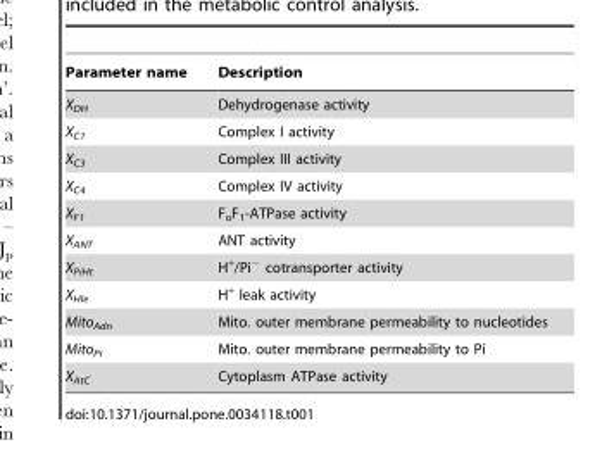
<table><thead><tr><td>Parameter name</td><td>Description</td></tr></thead><tbody><tr><td>X<sub>DH</sub></td><td>Dehydrogenase activity</td></tr><tr><td>X<sub>C1</sub></td><td>Complex I activity</td></tr><tr><td>X<sub>C3</sub></td><td>Complex III activity</td></tr><tr><td>X<sub>C4</sub></td><td>Complex IV activity</td></tr><tr><td>X<sub>F1</sub></td><td>F<sub>o</sub>F<sub>1</sub>-ATPase activity</td></tr><tr><td>X<sub>ANT</sub></td><td>ANT activity</td></tr><tr><td>X<sub>PiHt</sub></td><td>H<sup>+</sup>/Pi<sup>−</sup> cotransporter activity</td></tr><tr><td>X<sub>Hle</sub></td><td>H<sup>+</sup> leak activity</td></tr><tr><td>Mito<sub>Adn</sub></td><td>Mito. outer membrane permeability to nucleotides</td></tr><tr><td>Mito<sub>Pi</sub></td><td>Mito. outer membrane permeability to Pi</td></tr><tr><td>X<sub>AtC</sub></td><td>Cytoplasm ATPase activity</td></tr></tbody></table>